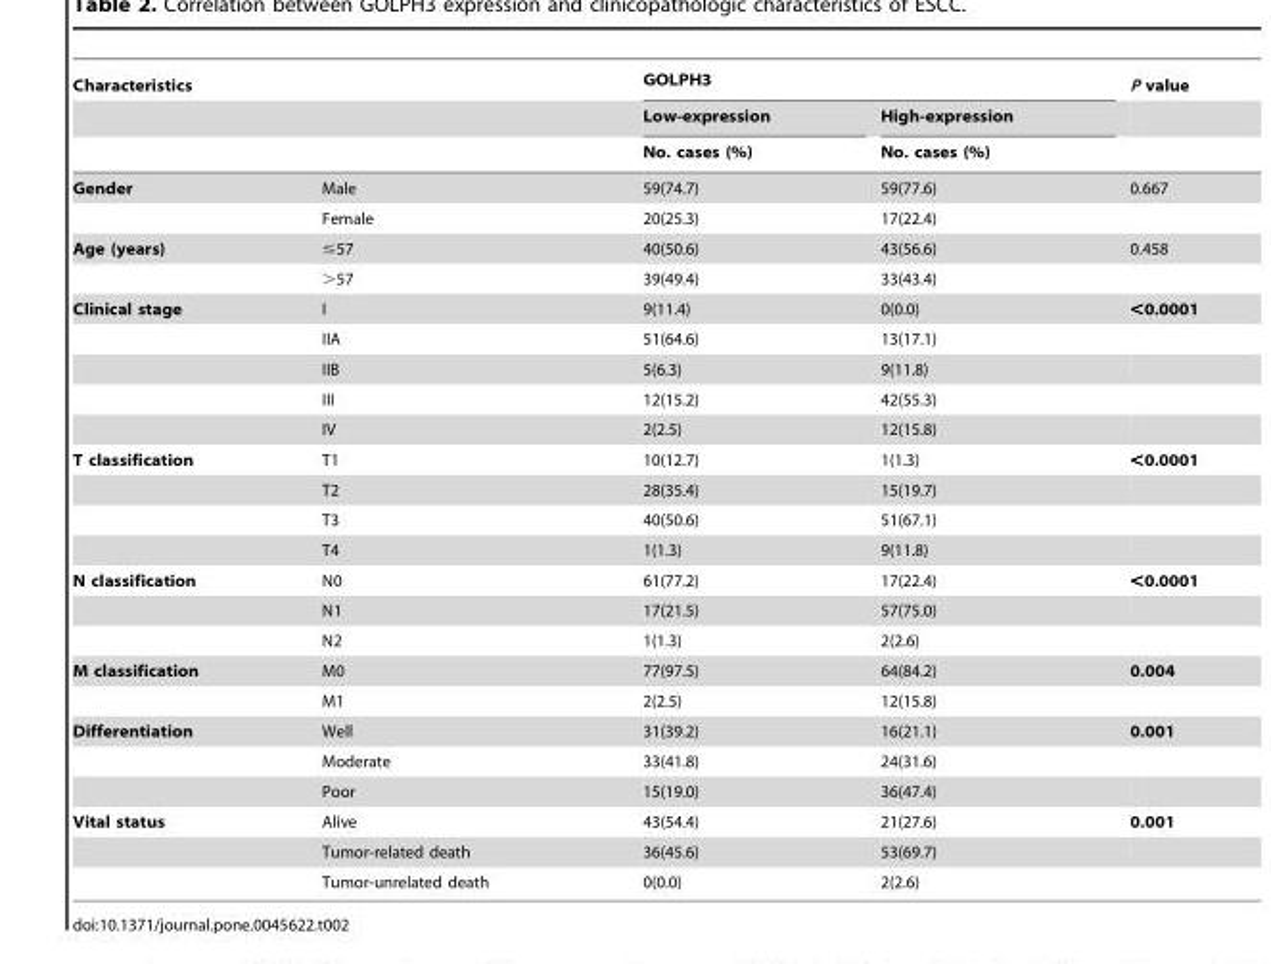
<table><thead><tr><td colspan="2">Characteristics</td><td colspan="2">GOLPH3</td><td rowspan="3">P value</td></tr><tr><td rowspan="2"></td><td rowspan="2"></td><td rowspan="2">Low-expression No. cases (%)</td><td rowspan="2">High-expression No. cases (%)</td></tr><tr></tr></thead><tbody><tr><td rowspan="2">Gender</td><td>Male</td><td>59(74.7)</td><td>59(77.6)</td><td>0.667</td></tr><tr><td>Female</td><td>20(25.3)</td><td>17(22.4)</td><td></td></tr><tr><td rowspan="2">Age (years)</td><td>≤57</td><td>40(50.6)</td><td>43(56.6)</td><td>0.458</td></tr><tr><td>&gt;57</td><td>39(49.4)</td><td>33(43.4)</td><td></td></tr><tr><td rowspan="5">Clinical stage</td><td>I</td><td>9(11.4)</td><td>0(0.0)</td><td>&lt;0.0001</td></tr><tr><td>IIA</td><td>51(64.6)</td><td>13(17.1)</td><td></td></tr><tr><td>IIB</td><td>5(6.3)</td><td>9(11.8)</td><td></td></tr><tr><td>III</td><td>12(15.2)</td><td>42(55.3)</td><td></td></tr><tr><td>IV</td><td>2(2.5)</td><td>12(15.8)</td><td></td></tr><tr><td rowspan="4">T classification</td><td>T1</td><td>10(12.7)</td><td>1(1.3)</td><td>&lt;0.0001</td></tr><tr><td>T2</td><td>28(35.4)</td><td>15(19.7)</td><td></td></tr><tr><td>T3</td><td>40(50.6)</td><td>51(67.1)</td><td></td></tr><tr><td>T4</td><td>1(1.3)</td><td>9(11.8)</td><td></td></tr><tr><td rowspan="3">N classification</td><td>N0</td><td>61(77.2)</td><td>17(22.4)</td><td>&lt;0.0001</td></tr><tr><td>N1</td><td>17(21.5)</td><td>57(75.0)</td><td></td></tr><tr><td>N2</td><td>1(1.3)</td><td>2(2.6)</td><td></td></tr><tr><td rowspan="2">M classification</td><td>M0</td><td>77(97.5)</td><td>64(84.2)</td><td>0.004</td></tr><tr><td>M1</td><td>2(2.5)</td><td>12(15.8)</td><td></td></tr><tr><td rowspan="3">Differentiation</td><td>Well</td><td>31(39.2)</td><td>16(21.1)</td><td>0.001</td></tr><tr><td>Moderate</td><td>33(41.8)</td><td>24(31.6)</td><td></td></tr><tr><td>Poor</td><td>15(19.0)</td><td>36(47.4)</td><td></td></tr><tr><td rowspan="3">Vital status</td><td>Alive</td><td>43(54.4)</td><td>21(27.6)</td><td>0.001</td></tr><tr><td>Tumor-related death</td><td>36(45.6)</td><td>53(69.7)</td><td></td></tr><tr><td>Tumor-unrelated death</td><td>0(0.0)</td><td>2(2.6)</td><td></td></tr></tbody></table>